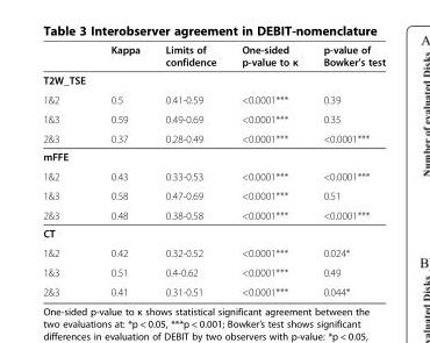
<table><thead><tr><td></td><td>Kappa</td><td>Limits of confidence</td><td>One-sided p-value to κ</td><td>p-value of Bowker’s test</td></tr></thead><tbody><tr><td colspan="5">T2W_TSE</td></tr><tr><td>1&amp;2</td><td>0.5</td><td>0.41-0.59</td><td>&lt;0.0001***</td><td>0.39</td></tr><tr><td>1&amp;3</td><td>0.59</td><td>0.49-0.69</td><td>&lt;0.0001***</td><td>0.35</td></tr><tr><td>2&amp;3</td><td>0.37</td><td>0.28-0.49</td><td>&lt;0.0001***</td><td>&lt;0.0001***</td></tr><tr><td colspan="5">mFFE</td></tr><tr><td>1&amp;2</td><td>0.43</td><td>0.33-0.53</td><td>&lt;0.0001***</td><td>&lt;0.0001***</td></tr><tr><td>1&amp;3</td><td>0.58</td><td>0.47-0.69</td><td>&lt;0.0001***</td><td>0.51</td></tr><tr><td>2&amp;3</td><td>0.48</td><td>0.38-0.58</td><td>&lt;0.0001***</td><td>&lt;0.0001***</td></tr><tr><td colspan="5">CT</td></tr><tr><td>1&amp;2</td><td>0.42</td><td>0.32-0.52</td><td>&lt;0.0001***</td><td>0.024*</td></tr><tr><td>1&amp;3</td><td>0.51</td><td>0.4-0.62</td><td>&lt;0.0001***</td><td>0.49</td></tr><tr><td>2&amp;3</td><td>0.41</td><td>0.31-0.51</td><td>&lt;0.0001***</td><td>0.044*</td></tr></tbody></table>